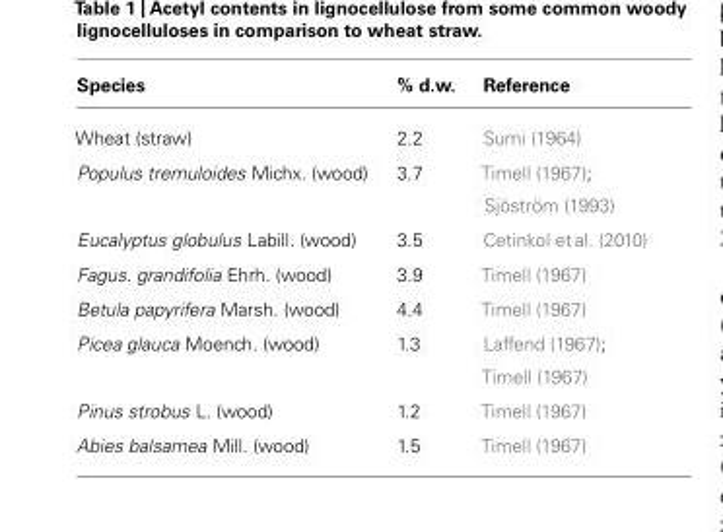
<table><thead><tr><td>Species</td><td>% d.w.</td><td>Reference</td></tr></thead><tbody><tr><td>Wheat (straw)</td><td>2.2</td><td>Sumi (1964)</td></tr><tr><td>Populus tremuloides Michx. (wood)</td><td>3.7</td><td>Timell (1967); Sjöström (1993)</td></tr><tr><td>Eucalyptus globulus Labill. (wood)</td><td>3.5</td><td>Cetinkol et al. (2010)</td></tr><tr><td>Fagus. grandifolia Ehrh. (wood)</td><td>3.9</td><td>Timell (1967)</td></tr><tr><td>Betula papyrifera Marsh. (wood)</td><td>4.4</td><td>Timell (1967)</td></tr><tr><td>Picea glauca Moench. (wood)</td><td>1.3</td><td>Laffend (1967); Timell (1967)</td></tr><tr><td>Pinus strobus L. (wood)</td><td>1.2</td><td>Timell (1967)</td></tr><tr><td>Abies balsamea Mill. (wood)</td><td>1.5</td><td>Timell (1967)</td></tr></tbody></table>